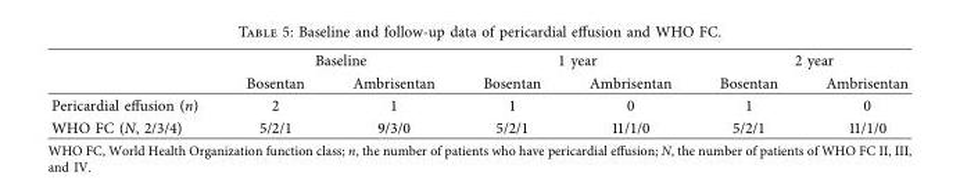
<table><thead><tr><td rowspan="2"></td><td colspan="2">Baseline</td><td colspan="2">1 year</td><td colspan="2">2 year</td></tr><tr><td>Bosentan</td><td>Ambrisentan</td><td>Bosentan</td><td>Ambrisentan</td><td>Bosentan</td><td>Ambrisentan</td></tr></thead><tbody><tr><td>Pericardial effusion (n)</td><td>2</td><td>1</td><td>1</td><td>0</td><td>1</td><td>0</td></tr><tr><td>WHO FC (N, 2/3/4)</td><td>5/2/1</td><td>9/3/0</td><td>5/2/1</td><td>11/1/0</td><td>5/2/1</td><td>11/1/0</td></tr></tbody></table>